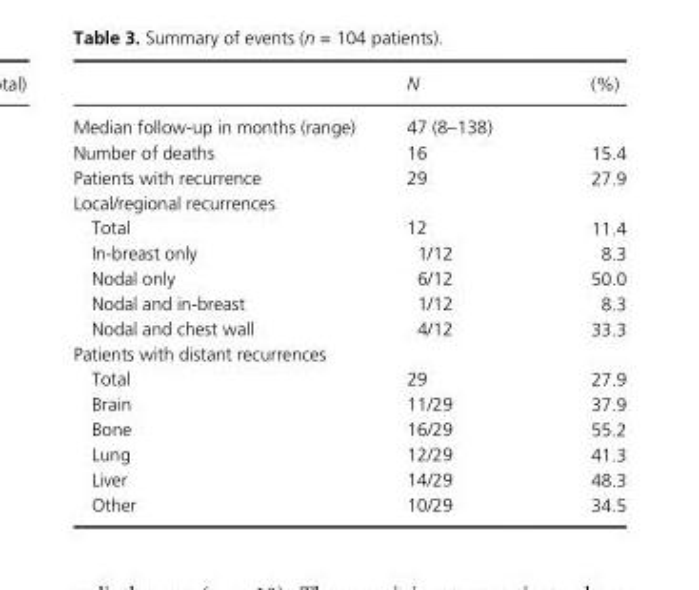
<table><thead><tr><td></td><td>N</td><td>(%)</td></tr></thead><tbody><tr><td>Median follow- up in months (range)</td><td>47 (8–138)</td><td></td></tr><tr><td>Number of deaths</td><td>16</td><td>15.4</td></tr><tr><td>Patients with recurrence</td><td>29</td><td>27.9</td></tr><tr><td colspan="3">Local/regional recurrences</td></tr><tr><td>Total</td><td>12</td><td>11.4</td></tr><tr><td>In- breast only</td><td>1/12</td><td>8.3</td></tr><tr><td>Nodal only</td><td>6/12</td><td>50.0</td></tr><tr><td>Nodal and in- breast</td><td>1/12</td><td>8.3</td></tr><tr><td>Nodal and chest wall</td><td>4/12</td><td>33.3</td></tr><tr><td colspan="3">Patients with distant recurrences</td></tr><tr><td>Total</td><td>29</td><td>27.9</td></tr><tr><td>Brain</td><td>11/29</td><td>37.9</td></tr><tr><td>Bone</td><td>16/29</td><td>55.2</td></tr><tr><td>Lung</td><td>12/29</td><td>41.3</td></tr><tr><td>Liver</td><td>14/29</td><td>48.3</td></tr><tr><td>Other</td><td>10/29</td><td>34.5</td></tr></tbody></table>